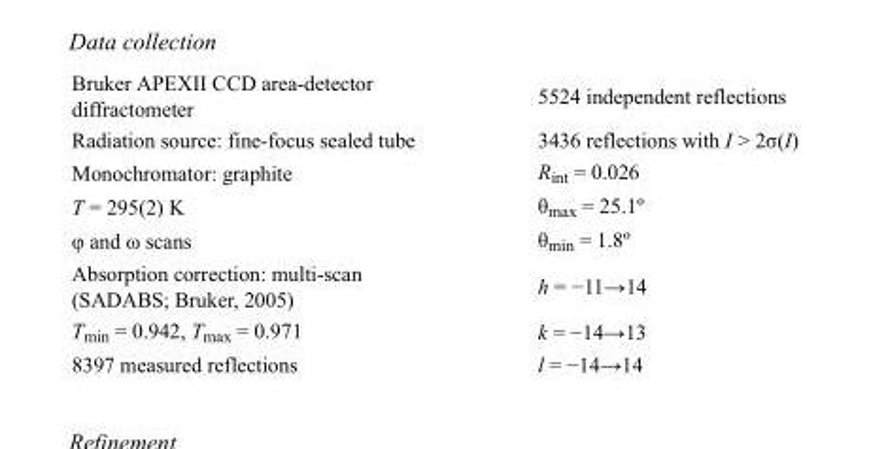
<table><tbody><tr><td>Bruker APEXII CCD area-detector diffractometer</td><td>5524 independent reflections</td></tr><tr><td>Radiation source: fine-focus sealed tube</td><td>3436 reflections with I &gt; 2σ(I)</td></tr><tr><td>Monochromator: graphite</td><td>R<sub>int</sub> = 0.026</td></tr><tr><td>T = 295(2) K</td><td>θ<sub>max</sub> = 25.1º</td></tr><tr><td>φ and ω scans</td><td>θ<sub>min</sub> = 1.8º</td></tr><tr><td>Absorption correction: multi-scan (SADABS; Bruker, 2005)</td><td>h = −11→14</td></tr><tr><td>T<sub>min</sub> = 0.942, T<sub>max</sub> = 0.971</td><td>k = −14→13</td></tr><tr><td>8397 measured reflections</td><td>l = −14→14</td></tr></tbody></table>